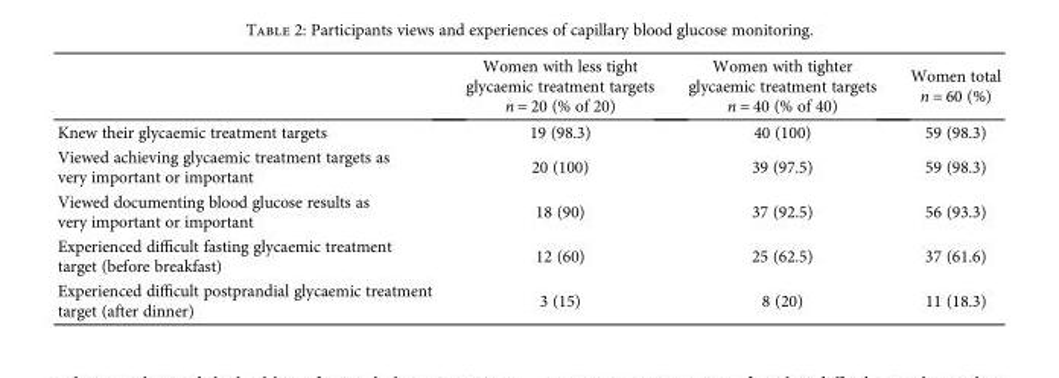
<table><thead><tr><td></td><td>Women with less tight glycaemic treatment targets n = 20 (% of 20)</td><td>Women with tighter glycaemic treatment targets n = 40 (% of 40)</td><td>Women total n = 60 (%)</td></tr></thead><tbody><tr><td>Knew their glycaemic treatment targets</td><td>19 (98.3)</td><td>40 (100)</td><td>59 (98.3)</td></tr><tr><td>Viewed achieving glycaemic treatment targets as very important or important</td><td>20 (100)</td><td>39 (97.5)</td><td>59 (98.3)</td></tr><tr><td>Viewed documenting blood glucose results as very important or important</td><td>18 (90)</td><td>37 (92.5)</td><td>56 (93.3)</td></tr><tr><td>Experienced difficult fasting glycaemic treatment target (before breakfast)</td><td>12 (60)</td><td>25 (62.5)</td><td>37 (61.6)</td></tr><tr><td>Experienced difficult postprandial glycaemic treatment target (after dinner)</td><td>3 (15)</td><td>8 (20)</td><td>11 (18.3)</td></tr></tbody></table>